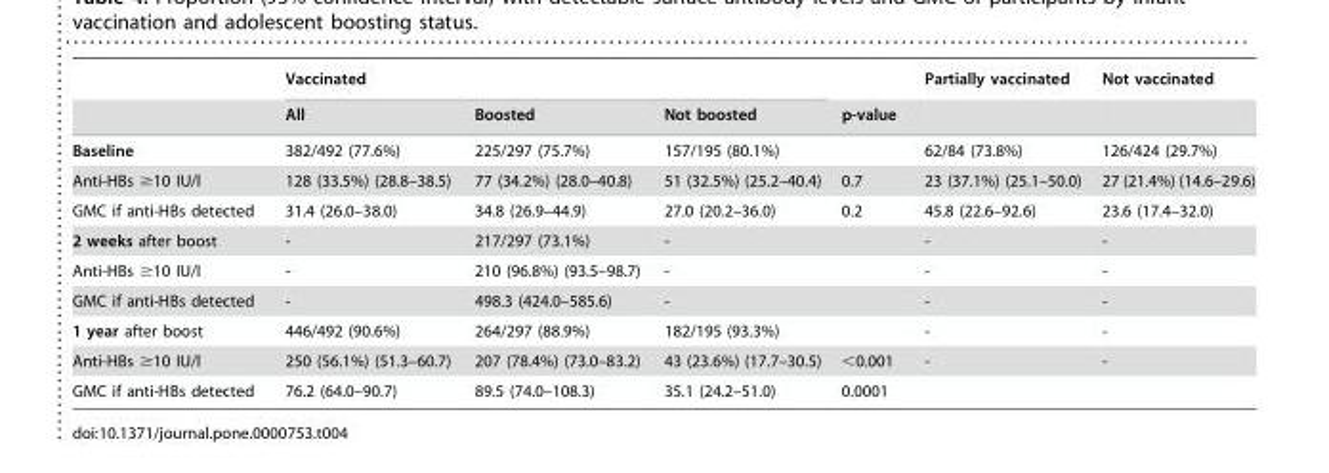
<table><thead><tr><td rowspan="2"></td><td colspan="3">Vaccinated</td><td rowspan="2">p-value</td><td rowspan="2">Partially vaccinated</td><td rowspan="2">Not vaccinated</td></tr><tr><td>All</td><td>Boosted</td><td>Not boosted</td></tr></thead><tbody><tr><td>Baseline</td><td>382/492 (77.6%)</td><td>225/297 (75.7%)</td><td>157/195 (80.1%)</td><td></td><td>62/84 (73.8%)</td><td>126/424 (29.7%)</td></tr><tr><td>Anti-HBs ≥10 IU/l</td><td>128 (33.5%) (28.8–38.5)</td><td>77 (34.2%) (28.0–40.8)</td><td>51 (32.5%) (25.2–40.4)</td><td>0.7</td><td>23 (37.1%) (25.1–50.0)</td><td>27 (21.4%) (14.6–29.6)</td></tr><tr><td>GMC if anti-HBs detected</td><td>31.4 (26.0–38.0)</td><td>34.8 (26.9–44.9)</td><td>27.0 (20.2–36.0)</td><td>0.2</td><td>45.8 (22.6–92.6)</td><td>23.6 (17.4–32.0)</td></tr><tr><td>2 weeks after boost</td><td>-</td><td>217/297 (73.1%)</td><td>-</td><td></td><td>-</td><td>-</td></tr><tr><td>Anti-HBs ≥10 IU/l</td><td>-</td><td>210 (96.8%) (93.5–98.7)</td><td>-</td><td></td><td>-</td><td>-</td></tr><tr><td>GMC if anti-HBs detected</td><td>-</td><td>498.3 (424.0–585.6)</td><td>-</td><td></td><td>-</td><td>-</td></tr><tr><td>1 year after boost</td><td>446/492 (90.6%)</td><td>264/297 (88.9%)</td><td>182/195 (93.3%)</td><td></td><td>-</td><td>-</td></tr><tr><td>Anti-HBs ≥10 IU/l</td><td>250 (56.1%) (51.3–60.7)</td><td>207 (78.4%) (73.0–83.2)</td><td>43 (23.6%) (17.7–30.5)</td><td>&lt;0.001</td><td>-</td><td>-</td></tr><tr><td>GMC if anti-HBs detected</td><td>76.2 (64.0–90.7)</td><td>89.5 (74.0–108.3)</td><td>35.1 (24.2–51.0)</td><td>0.0001</td><td></td><td></td></tr></tbody></table>